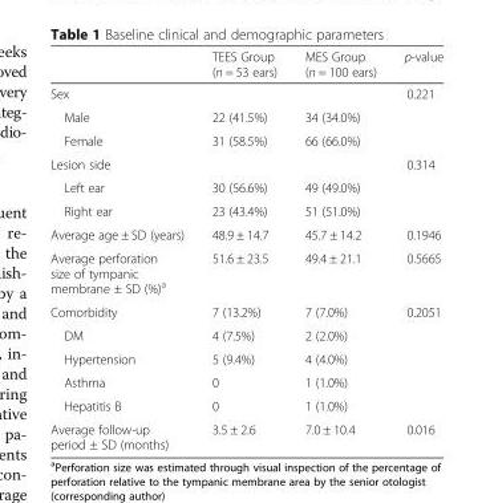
<table><thead><tr><td></td><td>TEES Group (n = 53 ears)</td><td>MES Group (n = 100 ears)</td><td>p-value</td></tr></thead><tbody><tr><td>Sex</td><td></td><td></td><td>0.221</td></tr><tr><td>Male</td><td>22 (41.5%)</td><td>34 (34.0%)</td><td></td></tr><tr><td>Female</td><td>31 (58.5%)</td><td>66 (66.0%)</td><td></td></tr><tr><td>Lesion side</td><td></td><td></td><td>0.314</td></tr><tr><td>Left ear</td><td>30 (56.6%)</td><td>49 (49.0%)</td><td></td></tr><tr><td>Right ear</td><td>23 (43.4%)</td><td>51 (51.0%)</td><td></td></tr><tr><td>Average age ± SD (years)</td><td>48.9 ± 14.7</td><td>45.7 ± 14.2</td><td>0.1946</td></tr><tr><td>Average perforation size of tympanic membrane ± SD (%)<sup>a</sup></td><td>51.6 ± 23.5</td><td>49.4 ± 21.1</td><td>0.5665</td></tr><tr><td>Comorbidity</td><td>7 (13.2%)</td><td>7 (7.0%)</td><td>0.2051</td></tr><tr><td>DM</td><td>4 (7.5%)</td><td>2 (2.0%)</td><td></td></tr><tr><td>Hypertension</td><td>5 (9.4%)</td><td>4 (4.0%)</td><td></td></tr><tr><td>Asthma</td><td>0</td><td>1 (1.0%)</td><td></td></tr><tr><td>Hepatitis B</td><td>0</td><td>1 (1.0%)</td><td></td></tr><tr><td>Average follow-up period ± SD (months)</td><td>3.5 ± 2.6</td><td>7.0 ± 10.4</td><td>0.016</td></tr></tbody></table>